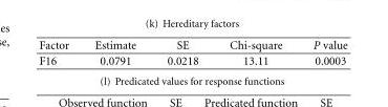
<table><thead><tr><td>Factor</td><td>Estimate</td><td>SE</td><td>Chi-square</td><td>P value</td></tr></thead><tbody><tr><td>F16</td><td>0.0791</td><td>0.0218</td><td>13.11</td><td>0.0003</td></tr></tbody></table>